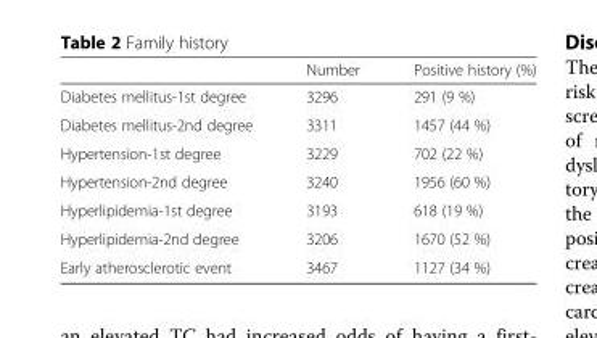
<table><thead><tr><td></td><td>Number</td><td>Positive history (%)</td></tr></thead><tbody><tr><td>Diabetes mellitus-1st degree</td><td>3296</td><td>291 (9 %)</td></tr><tr><td>Diabetes mellitus-2nd degree</td><td>3311</td><td>1457 (44 %)</td></tr><tr><td>Hypertension-1st degree</td><td>3229</td><td>702 (22 %)</td></tr><tr><td>Hypertension-2nd degree</td><td>3240</td><td>1956 (60 %)</td></tr><tr><td>Hyperlipidemia-1st degree</td><td>3193</td><td>618 (19 %)</td></tr><tr><td>Hyperlipidemia-2nd degree</td><td>3206</td><td>1670 (52 %)</td></tr><tr><td>Early atherosclerotic event</td><td>3467</td><td>1127 (34 %)</td></tr></tbody></table>